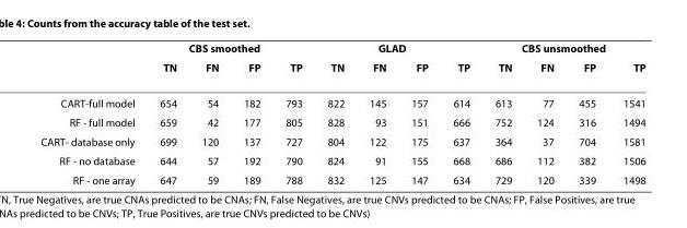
<table><thead><tr><td rowspan="2"></td><td colspan="4">CBS smoothed</td><td colspan="4">GLAD</td><td colspan="4">CBS unsmoothed</td></tr><tr><td>TN</td><td>FN</td><td>FP</td><td>TP</td><td>TN</td><td>FN</td><td>FP</td><td>TP</td><td>TN</td><td>FN</td><td>FP</td><td>TP</td></tr></thead><tbody><tr><td>CART-full model</td><td>654</td><td>54</td><td>182</td><td>793</td><td>822</td><td>145</td><td>157</td><td>614</td><td>613</td><td>77</td><td>455</td><td>1541</td></tr><tr><td>RF - full model</td><td>659</td><td>42</td><td>177</td><td>805</td><td>828</td><td>93</td><td>151</td><td>666</td><td>752</td><td>124</td><td>316</td><td>1494</td></tr><tr><td>CART- database only</td><td>699</td><td>120</td><td>137</td><td>727</td><td>804</td><td>122</td><td>175</td><td>637</td><td>364</td><td>37</td><td>704</td><td>1581</td></tr><tr><td>RF - no database</td><td>644</td><td>57</td><td>192</td><td>790</td><td>824</td><td>91</td><td>155</td><td>668</td><td>686</td><td>112</td><td>382</td><td>1506</td></tr><tr><td>RF - one array</td><td>647</td><td>59</td><td>189</td><td>788</td><td>832</td><td>125</td><td>147</td><td>634</td><td>729</td><td>120</td><td>339</td><td>1498</td></tr></tbody></table>